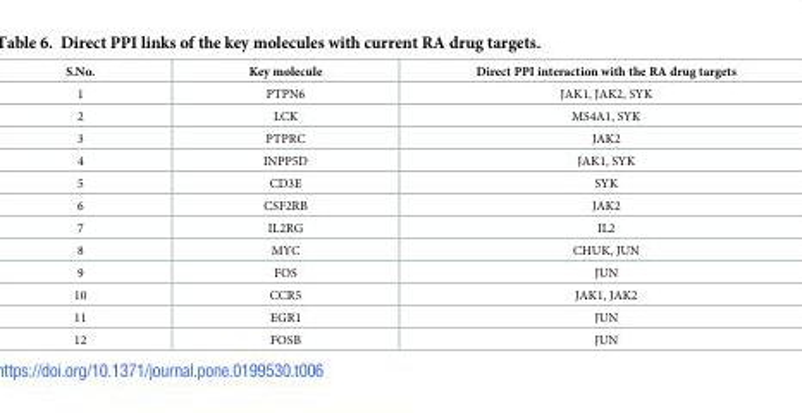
<table><thead><tr><td>S.No.</td><td>Key molecule</td><td>Direct PPI interaction with the RA drug targets</td></tr></thead><tbody><tr><td>1</td><td>PTPN6</td><td>JAK1, JAK2, SYK</td></tr><tr><td>2</td><td>LCK</td><td>MS4A1, SYK</td></tr><tr><td>3</td><td>PTPRC</td><td>JAK2</td></tr><tr><td>4</td><td>INPP5D</td><td>JAK1, SYK</td></tr><tr><td>5</td><td>CD3E</td><td>SYK</td></tr><tr><td>6</td><td>CSF2RB</td><td>JAK2</td></tr><tr><td>7</td><td>IL2RG</td><td>IL2</td></tr><tr><td>8</td><td>MYC</td><td>CHUK, JUN</td></tr><tr><td>9</td><td>FOS</td><td>JUN</td></tr><tr><td>10</td><td>CCR5</td><td>JAK1, JAK2</td></tr><tr><td>11</td><td>EGR1</td><td>JUN</td></tr><tr><td>12</td><td>FOSB</td><td>JUN</td></tr></tbody></table>